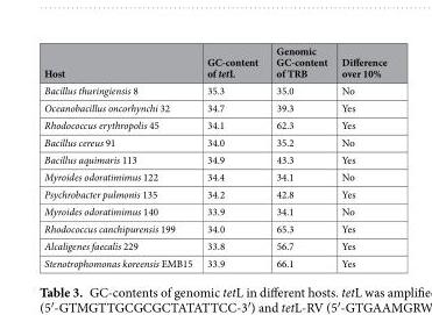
<table><thead><tr><td>Host</td><td>GC-content of tetL</td><td>Genomic GC-content of TRB</td><td>Difference over 10%</td></tr></thead><tbody><tr><td>Bacillus thuringiensis 8</td><td>35.3</td><td>35.0</td><td>No</td></tr><tr><td>Oceanobacillus oncorhynchi 32</td><td>34.7</td><td>39.3</td><td>Yes</td></tr><tr><td>Rhodococcus erythropolis 45</td><td>34.1</td><td>62.3</td><td>Yes</td></tr><tr><td>Bacillus cereus 91</td><td>34.0</td><td>35.2</td><td>No</td></tr><tr><td>Bacillus aquimaris 113</td><td>34.9</td><td>43.3</td><td>Yes</td></tr><tr><td>Myroides odoratimimus 122</td><td>34.4</td><td>34.1</td><td>No</td></tr><tr><td>Psychrobacter pulmonis 135</td><td>34.2</td><td>42.8</td><td>Yes</td></tr><tr><td>Myroides odoratimimus 140</td><td>33.9</td><td>34.1</td><td>No</td></tr><tr><td>Rhodococcus canchipurensis 199</td><td>34.0</td><td>65.3</td><td>Yes</td></tr><tr><td>Alcaligenes faecalis 229</td><td>33.8</td><td>56.7</td><td>Yes</td></tr><tr><td>Stenotrophomonas koreensis EMB15</td><td>33.9</td><td>66.1</td><td>Yes</td></tr></tbody></table>